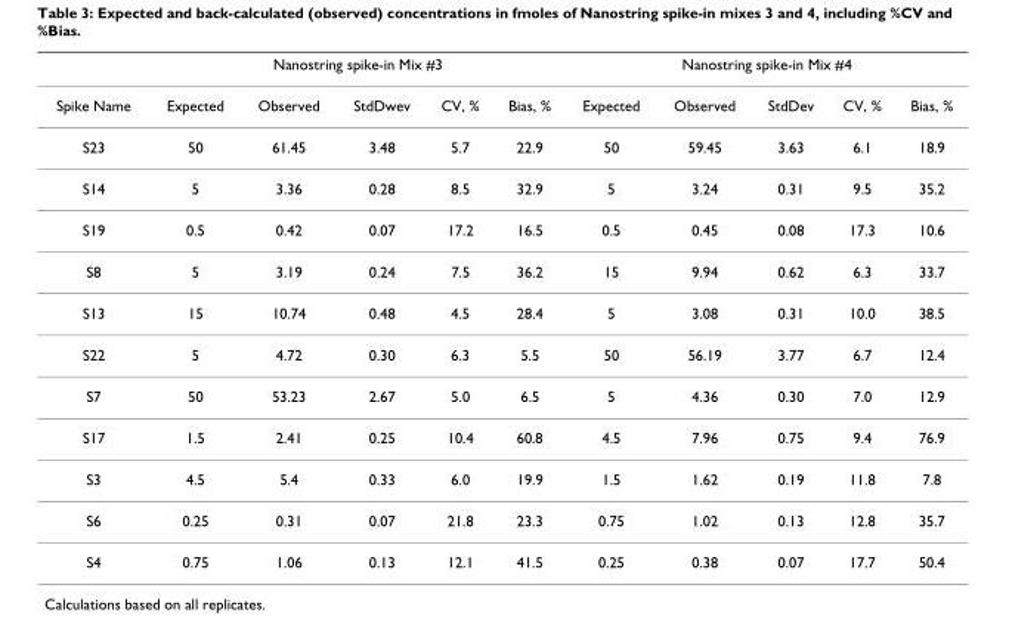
<table><thead><tr><td rowspan="2">Spike Name</td><td colspan="5">Nanostring spike-in Mix #3</td><td colspan="5">Nanostring spike-in Mix #4</td></tr><tr><td>Expected</td><td>Observed</td><td>StdDwev</td><td>CV, %</td><td>Bias, %</td><td>Expected</td><td>Observed</td><td>StdDev</td><td>CV, %</td><td>Bias, %</td></tr></thead><tbody><tr><td>S23</td><td>50</td><td>61.45</td><td>3.48</td><td>5.7</td><td>22.9</td><td>50</td><td>59.45</td><td>3.63</td><td>6.1</td><td>18.9</td></tr><tr><td>S14</td><td>5</td><td>3.36</td><td>0.28</td><td>8.5</td><td>32.9</td><td>5</td><td>3.24</td><td>0.31</td><td>9.5</td><td>35.2</td></tr><tr><td>S19</td><td>0.5</td><td>0.42</td><td>0.07</td><td>17.2</td><td>16.5</td><td>0.5</td><td>0.45</td><td>0.08</td><td>17.3</td><td>10.6</td></tr><tr><td>S8</td><td>5</td><td>3.19</td><td>0.24</td><td>7.5</td><td>36.2</td><td>15</td><td>9.94</td><td>0.62</td><td>6.3</td><td>33.7</td></tr><tr><td>S13</td><td>15</td><td>10.74</td><td>0.48</td><td>4.5</td><td>28.4</td><td>5</td><td>3.08</td><td>0.31</td><td>10.0</td><td>38.5</td></tr><tr><td>S22</td><td>5</td><td>4.72</td><td>0.30</td><td>6.3</td><td>5.5</td><td>50</td><td>56.19</td><td>3.77</td><td>6.7</td><td>12.4</td></tr><tr><td>S7</td><td>50</td><td>53.23</td><td>2.67</td><td>5.0</td><td>6.5</td><td>5</td><td>4.36</td><td>0.30</td><td>7.0</td><td>12.9</td></tr><tr><td>S17</td><td>1.5</td><td>2.41</td><td>0.25</td><td>10.4</td><td>60.8</td><td>4.5</td><td>7.96</td><td>0.75</td><td>9.4</td><td>76.9</td></tr><tr><td>S3</td><td>4.5</td><td>5.4</td><td>0.33</td><td>6.0</td><td>19.9</td><td>1.5</td><td>1.62</td><td>0.19</td><td>11.8</td><td>7.8</td></tr><tr><td>S6</td><td>0.25</td><td>0.31</td><td>0.07</td><td>21.8</td><td>23.3</td><td>0.75</td><td>1.02</td><td>0.13</td><td>12.8</td><td>35.7</td></tr><tr><td>S4</td><td>0.75</td><td>1.06</td><td>0.13</td><td>12.1</td><td>41.5</td><td>0.25</td><td>0.38</td><td>0.07</td><td>17.7</td><td>50.4</td></tr></tbody></table>